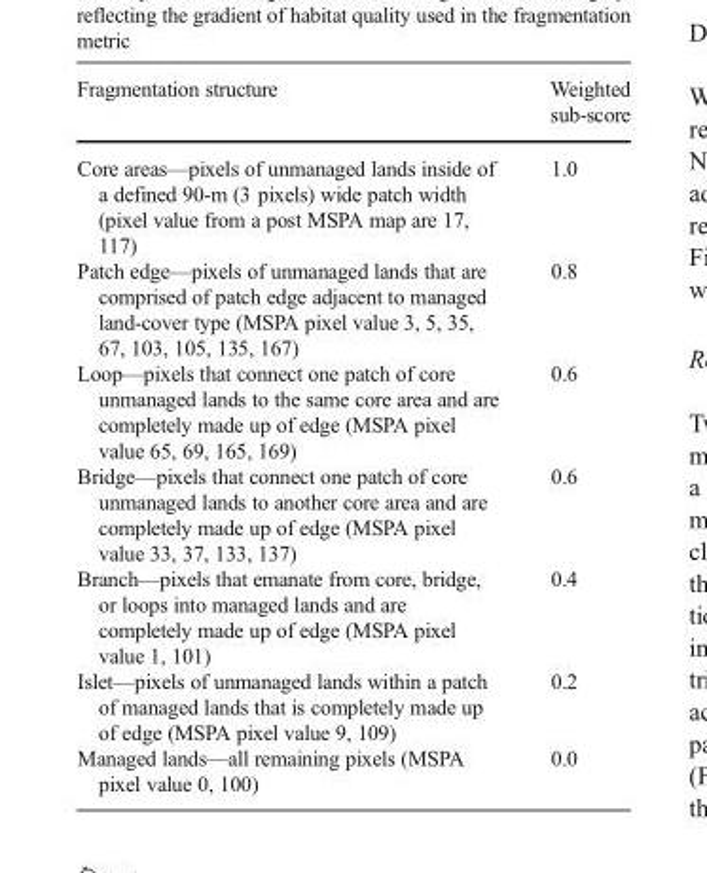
<table><thead><tr><td>Fragmentation structure</td><td>Weighted sub-score</td></tr></thead><tbody><tr><td>Core areas—pixels of unmanaged lands inside of a defined 90-m (3 pixels) wide patch width (pixel value from a post MSPA map are 17, 117)</td><td>1.0</td></tr><tr><td>Patch edge—pixels of unmanaged lands that are comprised of patch edge adjacent to managed land-cover type (MSPA pixel value 3, 5, 35, 67, 103, 105, 135, 167)</td><td>0.8</td></tr><tr><td>Loop—pixels that connect one patch of core unmanaged lands to the same core area and are completely made up of edge (MSPA pixel value 65, 69, 165, 169)</td><td>0.6</td></tr><tr><td>Bridge—pixels that connect one patch of core unmanaged lands to another core area and are completely made up of edge (MSPA pixel value 33, 37, 133, 137)</td><td>0.6</td></tr><tr><td>Branch—pixels that emanate from core, bridge, or loops into managed lands and are completely made up of edge (MSPA pixel value 1, 101)</td><td>0.4</td></tr><tr><td>Islet—pixels of unmanaged lands within a patch of managed lands that is completely made up of edge (MSPA pixel value 9, 109)</td><td>0.2</td></tr><tr><td>Managed lands—all remaining pixels (MSPA pixel value 0, 100)</td><td>0.0</td></tr></tbody></table>